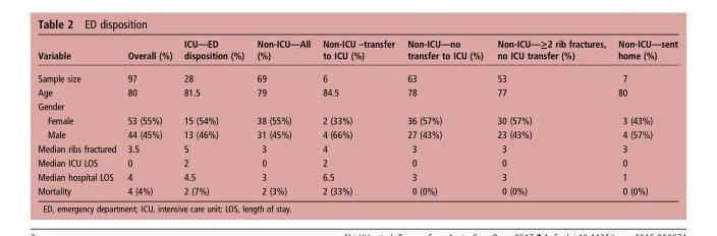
<table><thead><tr><td>Variable</td><td>Overall (%)</td><td>ICU—ED disposition (%)</td><td>Non-ICU—All (%)</td><td>Non-ICU –transfer to ICU (%)</td><td>Non-ICU—no transfer to ICU (%)</td><td>Non-ICU—≥2 rib fractures, no ICU transfer (%)</td><td>Non-ICU—sent home (%)</td></tr></thead><tbody><tr><td>Sample size</td><td>97</td><td>28</td><td>69</td><td>6</td><td>63</td><td>53</td><td>7</td></tr><tr><td>Age</td><td>80</td><td>81.5</td><td>79</td><td>84.5</td><td>78</td><td>77</td><td>80</td></tr><tr><td colspan="8">Gender</td></tr><tr><td>Female</td><td>53 (55%)</td><td>15 (54%)</td><td>38 (55%)</td><td>2 (33%)</td><td>36 (57%)</td><td>30 (57%)</td><td>3 (43%)</td></tr><tr><td>Male</td><td>44 (45%)</td><td>13 (46%)</td><td>31 (45%)</td><td>4 (66%)</td><td>27 (43%)</td><td>23 (43%)</td><td>4 (57%)</td></tr><tr><td>Median ribs fractured</td><td>3.5</td><td>5</td><td>3</td><td>4</td><td>3</td><td>3</td><td>3</td></tr><tr><td>Median ICU LOS</td><td>0</td><td>2</td><td>0</td><td>2</td><td>0</td><td>0</td><td>0</td></tr><tr><td>Median hospital LOS</td><td>4</td><td>4.5</td><td>3</td><td>6.5</td><td>3</td><td>3</td><td>1</td></tr><tr><td>Mortality</td><td>4 (4%)</td><td>2 (7%)</td><td>2 (3%)</td><td>2 (33%)</td><td>0 (0%)</td><td>0 (0%)</td><td>0 (0%)</td></tr></tbody></table>